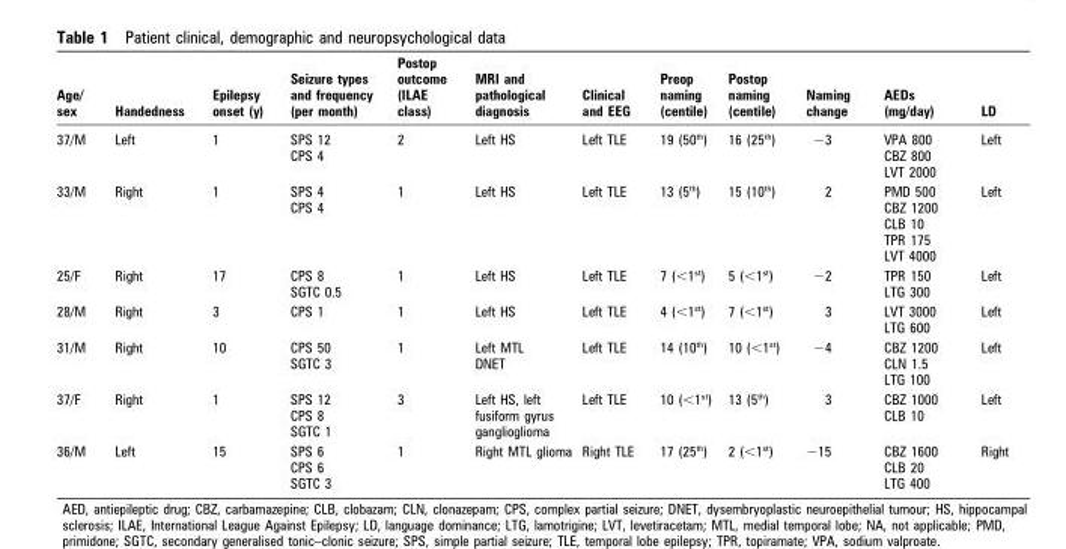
<table><thead><tr><td>Age/ sex</td><td>Handedness</td><td>Epilepsy onset (y)</td><td>Seizure types and frequency (per month)</td><td>Postop outcome (ILAE class)</td><td>MRI and pathological diagnosis</td><td>Clinical and EEG</td><td>Preop naming (centile)</td><td>Postop naming (centile)</td><td>Naming change</td><td>AEDs (mg/day)</td><td>LD</td></tr></thead><tbody><tr><td>37/M</td><td>Left</td><td>1</td><td>SPS 12 CPS 4</td><td>2</td><td>Left HS</td><td>Left TLE</td><td>19 (50<sup>th</sup>)</td><td>16 (25<sup>th</sup>)</td><td>−3</td><td>VPA 800 CBZ 800 LVT 2000</td><td>Left</td></tr><tr><td>33/M</td><td>Right</td><td>1</td><td>SPS 4 CPS 4</td><td>1</td><td>Left HS</td><td>Left TLE</td><td>13 (5<sup>th</sup>)</td><td>15 (10<sup>th</sup>)</td><td>2</td><td>PMD 500 CBZ 1200 CLB 10 TPR 175 LVT 4000</td><td>Left</td></tr><tr><td>25/F</td><td>Right</td><td>17</td><td>CPS 8 SGTC 0.5</td><td>1</td><td>Left HS</td><td>Left TLE</td><td>7 (&lt;1<sup>st</sup>)</td><td>5 (&lt;1<sup>st</sup>)</td><td>−2</td><td>TPR 150 LTG 300</td><td>Left</td></tr><tr><td>28/M</td><td>Right</td><td>3</td><td>CPS 1</td><td>1</td><td>Left HS</td><td>Left TLE</td><td>4 (&lt;1<sup>st</sup>)</td><td>7 (&lt;1<sup>st</sup>)</td><td>3</td><td>LVT 3000 LTG 600</td><td>Left</td></tr><tr><td>31/M</td><td>Right</td><td>10</td><td>CPS 50 SGTC 3</td><td>1</td><td>Left MTL DNET</td><td>Left TLE</td><td>14 (10<sup>th</sup>)</td><td>10 (&lt;1<sup>st</sup>)</td><td>−4</td><td>CBZ 1200 CLN 1.5 LTG 100</td><td>Left</td></tr><tr><td>37/F</td><td>Right</td><td>1</td><td>SPS 12 CPS 8 SGTC 1</td><td>3</td><td>Left HS, left fusiform gyrus ganglioglioma</td><td>Left TLE</td><td>10 (&lt;1<sup>st</sup>)</td><td>13 (5<sup>th</sup>)</td><td>3</td><td>CBZ 1000 CLB 10</td><td>Left</td></tr><tr><td>36/M</td><td>Left</td><td>15</td><td>SPS 6 CPS 6 SGTC 3</td><td>1</td><td>Right MTL glioma</td><td>Right TLE</td><td>17 (25<sup>th</sup>)</td><td>2 (&lt;1<sup>st</sup>)</td><td>−15</td><td>CBZ 1600 CLB 20 LTG 400</td><td>Right</td></tr></tbody></table>